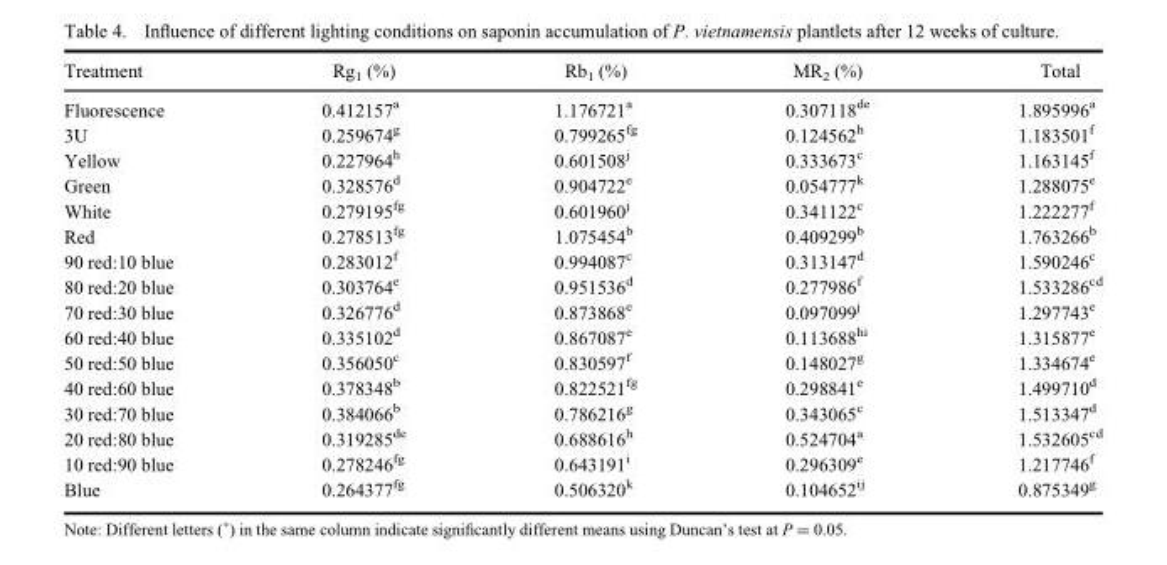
<table><thead><tr><td>Treatment</td><td>Rg<sub>1</sub> (%)</td><td>Rb<sub>1</sub> (%)</td><td>MR<sub>2</sub> (%)</td><td>Total</td></tr></thead><tbody><tr><td>Fluorescence</td><td>0.412157<sup>a</sup></td><td>1.176721<sup>a</sup></td><td>0.307118<sup>de</sup></td><td>1.895996<sup>a</sup></td></tr><tr><td>3U</td><td>0.259674<sup>g</sup></td><td>0.799265<sup>fg</sup></td><td>0.124562<sup>h</sup></td><td>1.183501<sup>f</sup></td></tr><tr><td>Yellow</td><td>0.227964<sup>h</sup></td><td>0.601508<sup>j</sup></td><td>0.333673<sup>c</sup></td><td>1.163145<sup>f</sup></td></tr><tr><td>Green</td><td>0.328576<sup>d</sup></td><td>0.904722<sup>e</sup></td><td>0.054777<sup>k</sup></td><td>1.288075<sup>e</sup></td></tr><tr><td>White</td><td>0.279195<sup>fg</sup></td><td>0.601960<sup>j</sup></td><td>0.341122<sup>c</sup></td><td>1.222277<sup>f</sup></td></tr><tr><td>Red</td><td>0.278513<sup>fg</sup></td><td>1.075454<sup>b</sup></td><td>0.409299<sup>b</sup></td><td>1.763266<sup>b</sup></td></tr><tr><td>90 red:10 blue</td><td>0.283012<sup>f</sup></td><td>0.994087<sup>c</sup></td><td>0.313147<sup>d</sup></td><td>1.590246<sup>c</sup></td></tr><tr><td>80 red:20 blue</td><td>0.303764<sup>e</sup></td><td>0.951536<sup>d</sup></td><td>0.277986<sup>f</sup></td><td>1.533286<sup>cd</sup></td></tr><tr><td>70 red:30 blue</td><td>0.326776<sup>d</sup></td><td>0.873868<sup>e</sup></td><td>0.097099<sup>j</sup></td><td>1.297743<sup>e</sup></td></tr><tr><td>60 red:40 blue</td><td>0.335102<sup>d</sup></td><td>0.867087<sup>e</sup></td><td>0.113688<sup>hi</sup></td><td>1.315877<sup>e</sup></td></tr><tr><td>50 red:50 blue</td><td>0.356050<sup>c</sup></td><td>0.830597<sup>f</sup></td><td>0.148027<sup>g</sup></td><td>1.334674<sup>e</sup></td></tr><tr><td>40 red:60 blue</td><td>0.378348<sup>b</sup></td><td>0.822521<sup>fg</sup></td><td>0.298841<sup>e</sup></td><td>1.499710<sup>d</sup></td></tr><tr><td>30 red:70 blue</td><td>0.384066<sup>b</sup></td><td>0.786216<sup>g</sup></td><td>0.343065<sup>c</sup></td><td>1.513347<sup>d</sup></td></tr><tr><td>20 red:80 blue</td><td>0.319285<sup>de</sup></td><td>0.688616<sup>h</sup></td><td>0.524704<sup>a</sup></td><td>1.532605<sup>cd</sup></td></tr><tr><td>10 red:90 blue</td><td>0.278246<sup>fg</sup></td><td>0.643191<sup>i</sup></td><td>0.296309<sup>e</sup></td><td>1.217746<sup>f</sup></td></tr><tr><td>Blue</td><td>0.264377<sup>fg</sup></td><td>0.506320<sup>k</sup></td><td>0.104652<sup>ij</sup></td><td>0.875349<sup>g</sup></td></tr></tbody></table>